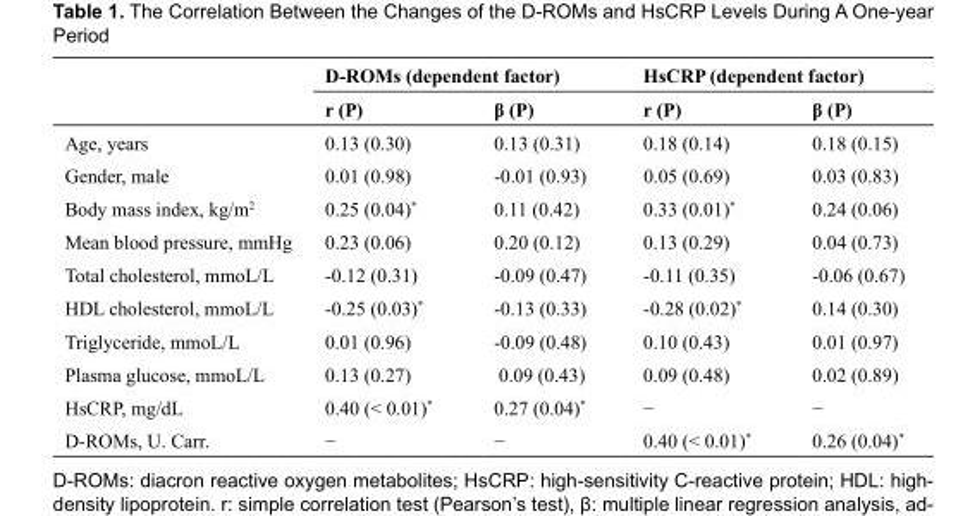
<table><thead><tr><td rowspan="2"></td><td colspan="2">D-ROMs (dependent factor)</td><td colspan="2">HsCRP (dependent factor)</td></tr><tr><td>r (P)</td><td>β (P)</td><td>r (P)</td><td>β (P)</td></tr></thead><tbody><tr><td>Age, years</td><td>0.13 (0.30)</td><td>0.13 (0.31)</td><td>0.18 (0.14)</td><td>0.18 (0.15)</td></tr><tr><td>Gender, male</td><td>0.01 (0.98)</td><td>-0.01 (0.93)</td><td>0.05 (0.69)</td><td>0.03 (0.83)</td></tr><tr><td>Body mass index, kg/m<sup>2</sup></td><td>0.25 (0.04)*</td><td>0.11 (0.42)</td><td>0.33 (0.01)*</td><td>0.24 (0.06)</td></tr><tr><td>Mean blood pressure, mmHg</td><td>0.23 (0.06)</td><td>0.20 (0.12)</td><td>0.13 (0.29)</td><td>0.04 (0.73)</td></tr><tr><td>Total cholesterol, mmoL/L</td><td>-0.12 (0.31)</td><td>-0.09 (0.47)</td><td>-0.11 (0.35)</td><td>-0.06 (0.67)</td></tr><tr><td>HDL cholesterol, mmoL/L</td><td>-0.25 (0.03)*</td><td>-0.13 (0.33)</td><td>-0.28 (0.02)*</td><td>0.14 (0.30)</td></tr><tr><td>Triglyceride, mmoL/L</td><td>0.01 (0.96)</td><td>-0.09 (0.48)</td><td>0.10 (0.43)</td><td>0.01 (0.97)</td></tr><tr><td>Plasma glucose, mmoL/L</td><td>0.13 (0.27)</td><td>0.09 (0.43)</td><td>0.09 (0.48)</td><td>0.02 (0.89)</td></tr><tr><td>HsCRP, mg/dL</td><td>0.40 (&lt; 0.01)*</td><td>0.27 (0.04)*</td><td>−</td><td>−</td></tr><tr><td>D-ROMs, U. Carr.</td><td>−</td><td>−</td><td>0.40 (&lt; 0.01)*</td><td>0.26 (0.04)*</td></tr></tbody></table>